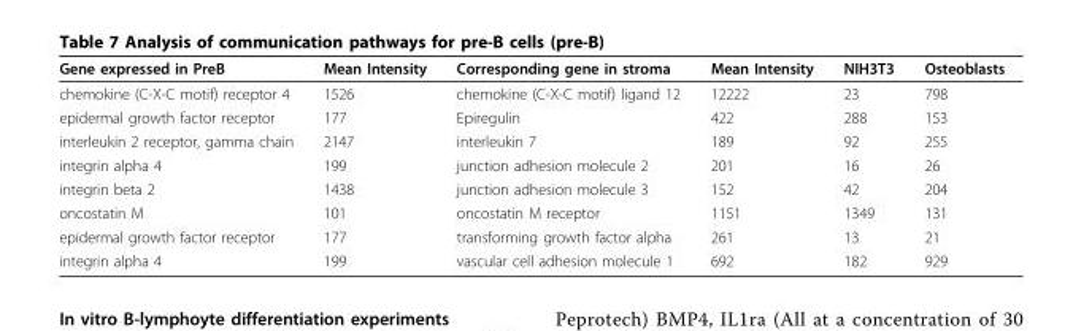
<table><thead><tr><td>Gene expressed in PreB</td><td>Mean Intensity</td><td>Corresponding gene in stroma</td><td>Mean Intensity</td><td>NIH3T3</td><td>Osteoblasts</td></tr></thead><tbody><tr><td>chemokine (C-X-C motif) receptor 4</td><td>1526</td><td>chemokine (C-X-C motif) ligand 12</td><td>12222</td><td>23</td><td>798</td></tr><tr><td>epidermal growth factor receptor</td><td>177</td><td>Epiregulin</td><td>422</td><td>288</td><td>153</td></tr><tr><td>interleukin 2 receptor, gamma chain</td><td>2147</td><td>interleukin 7</td><td>189</td><td>92</td><td>255</td></tr><tr><td>integrin alpha 4</td><td>199</td><td>junction adhesion molecule 2</td><td>201</td><td>16</td><td>26</td></tr><tr><td>integrin beta 2</td><td>1438</td><td>junction adhesion molecule 3</td><td>152</td><td>42</td><td>204</td></tr><tr><td>oncostatin M</td><td>101</td><td>oncostatin M receptor</td><td>1151</td><td>1349</td><td>131</td></tr><tr><td>epidermal growth factor receptor</td><td>177</td><td>transforming growth factor alpha</td><td>261</td><td>13</td><td>21</td></tr><tr><td>integrin alpha 4</td><td>199</td><td>vascular cell adhesion molecule 1</td><td>692</td><td>182</td><td>929</td></tr></tbody></table>